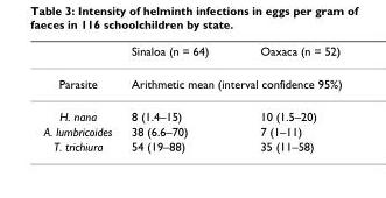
<table><thead><tr><td></td><td>Sinaloa (n = 64)</td><td>Oaxaca (n = 52)</td></tr></thead><tbody><tr><td>Parasite</td><td colspan="2">Arithmetic mean (interval confidence 95%)</td></tr><tr><td>H. nana</td><td>8 (1.4–15)</td><td>10 (1.5–20)</td></tr><tr><td>A. lumbricoides</td><td>38 (6.6–70)</td><td>7 (1–11)</td></tr><tr><td>T. trichiura</td><td>54 (19–88)</td><td>35 (11–58)</td></tr></tbody></table>